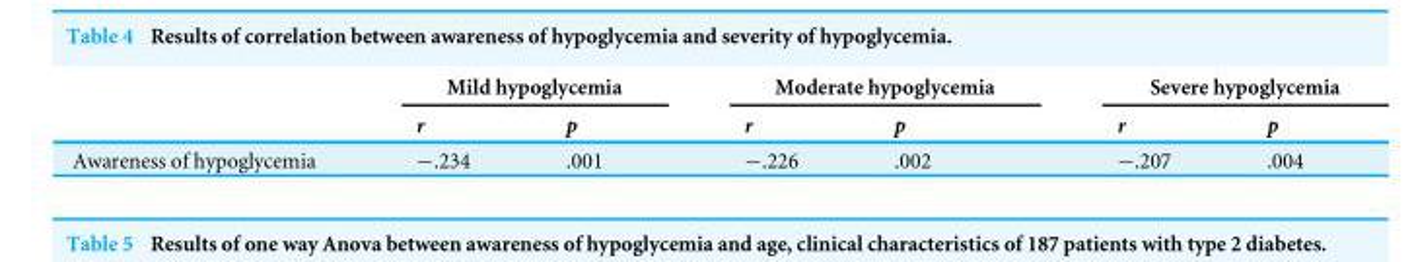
<table><thead><tr><td rowspan="2"></td><td colspan="2">Mild hypoglycemia</td><td colspan="2">Moderate hypoglycemia</td><td colspan="2">Severe hypoglycemia</td></tr><tr><td>r</td><td>p</td><td>r</td><td>p</td><td>r</td><td>p</td></tr></thead><tbody><tr><td>Awareness of hypoglycemia</td><td>−.234</td><td>.001</td><td>−.226</td><td>.002</td><td>−.207</td><td>.004</td></tr></tbody></table>